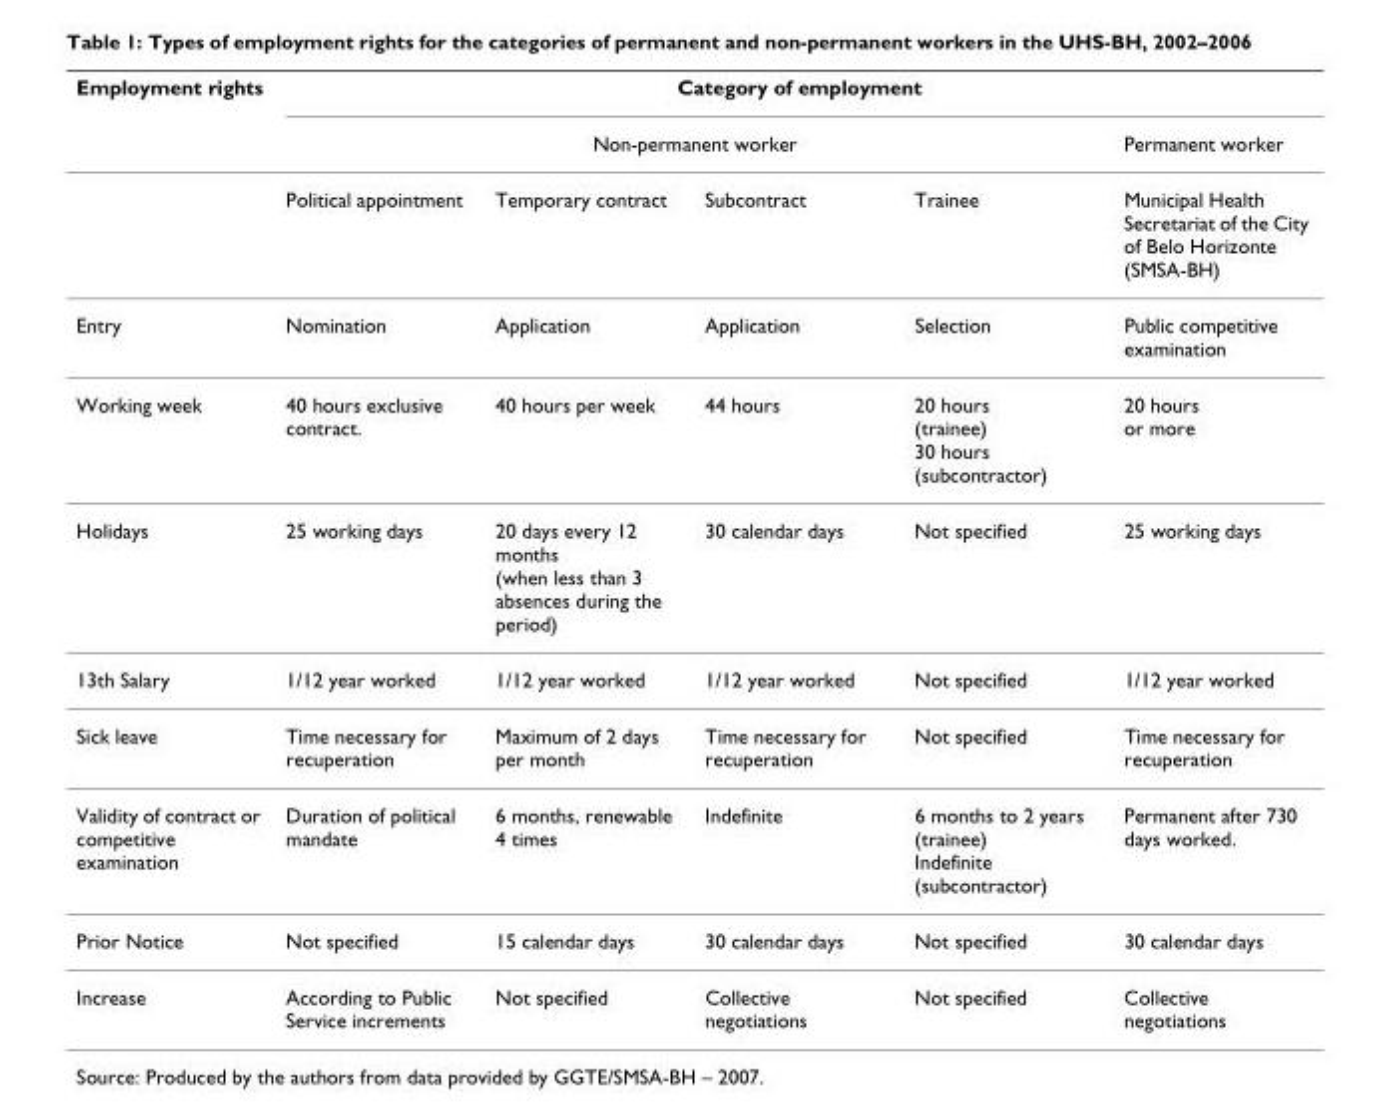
<table><thead><tr><td rowspan="3">Employment rights</td><td colspan="5">Category of employment</td></tr><tr><td colspan="4">Non-permanent worker</td><td rowspan="2">Permanent worker Municipal Health Secretariat of the City of Belo Horizonte (SMSA-BH)</td></tr><tr><td>Political appointment</td><td>Temporary contract</td><td>Subcontract</td><td>Trainee</td></tr></thead><tbody><tr><td>Entry</td><td>Nomination</td><td>Application</td><td>Application</td><td>Selection</td><td>Public competitive examination</td></tr><tr><td>Working week</td><td>40 hours exclusive contract.</td><td>40 hours per week</td><td>44 hours</td><td>20 hours (trainee) 30 hours (subcontractor)</td><td>20 hours or more</td></tr><tr><td>Holidays</td><td>25 working days</td><td>20 days every 12 months (when less than 3 absences during the period)</td><td>30 calendar days</td><td>Not specified</td><td>25 working days</td></tr><tr><td>13th Salary</td><td>1/12 year worked</td><td>1/12 year worked</td><td>1/12 year worked</td><td>Not specified</td><td>1/12 year worked</td></tr><tr><td>Sick leave</td><td>Time necessary for recuperation</td><td>Maximum of 2 days per month</td><td>Time necessary for recuperation</td><td>Not specified</td><td>Time necessary for recuperation</td></tr><tr><td>Validity of contract or competitive examination</td><td>Duration of political mandate</td><td>6 months, renewable 4 times</td><td>Indefinite</td><td>6 months to 2 years (trainee) Indefinite (subcontractor)</td><td>Permanent after 730 days worked.</td></tr><tr><td>Prior Notice</td><td>Not specified</td><td>15 calendar days</td><td>30 calendar days</td><td>Not specified</td><td>30 calendar days</td></tr><tr><td>Increase</td><td>According to Public Service increments</td><td>Not specified</td><td>Collective negotiations</td><td>Not specified</td><td>Collective negotiations</td></tr></tbody></table>